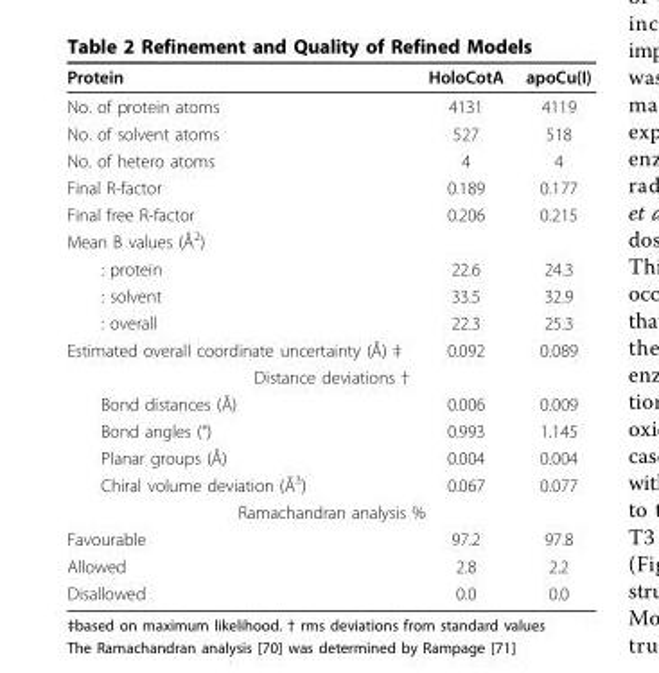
<table><thead><tr><td>Protein</td><td>HoloCotA</td><td>apoCu(I)</td></tr></thead><tbody><tr><td>No. of protein atoms</td><td>4131</td><td>4119</td></tr><tr><td>No. of solvent atoms</td><td>527</td><td>518</td></tr><tr><td>No. of hetero atoms</td><td>4</td><td>4</td></tr><tr><td>Final R-factor</td><td>0.189</td><td>0.177</td></tr><tr><td>Final free R-factor</td><td>0.206</td><td>0.215</td></tr><tr><td colspan="3">Mean B values (Å<sup>2</sup>)</td></tr><tr><td>: protein</td><td>22.6</td><td>24.3</td></tr><tr><td>: solvent</td><td>33.5</td><td>32.9</td></tr><tr><td>: overall</td><td>22.3</td><td>25.3</td></tr><tr><td>Estimated overall coordinate uncertainty (Å) ‡</td><td>0.092</td><td>0.089</td></tr><tr><td colspan="3">Distance deviations †</td></tr><tr><td>Bond distances (Å)</td><td>0.006</td><td>0.009</td></tr><tr><td>Bond angles (°)</td><td>0.993</td><td>1.145</td></tr><tr><td>Planar groups (Å)</td><td>0.004</td><td>0.004</td></tr><tr><td>Chiral volume deviation (Å<sup>3</sup>)</td><td>0.067</td><td>0.077</td></tr><tr><td colspan="3">Ramachandran analysis %</td></tr><tr><td>Favourable</td><td>97.2</td><td>97.8</td></tr><tr><td>Allowed</td><td>2.8</td><td>2.2</td></tr><tr><td>Disallowed</td><td>0.0</td><td>0.0</td></tr></tbody></table>